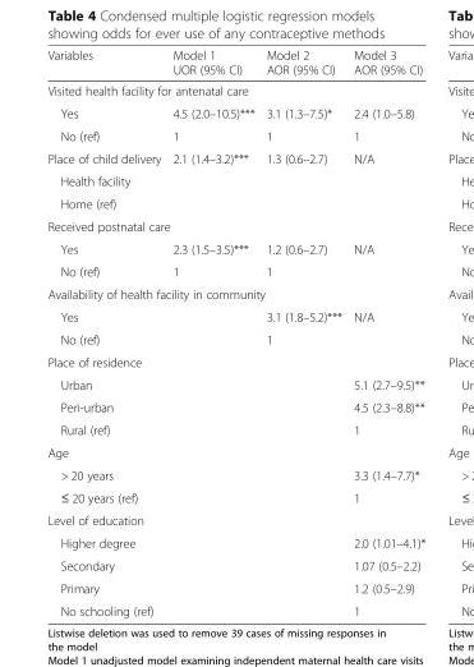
<table><thead><tr><td>Variables</td><td>Model 1 UOR (95% CI)</td><td>Model 2 AOR (95% CI)</td><td>Model 3 AOR (95% CI)</td></tr></thead><tbody><tr><td colspan="4">Visited health facility for antenatal care</td></tr><tr><td>Yes</td><td>4.5 (2.0–10.5)***</td><td>3.1 (1.3–7.5)*</td><td>2.4 (1.0–5.8)</td></tr><tr><td>No (ref)</td><td>1</td><td>1</td><td>1</td></tr><tr><td>Place of child delivery</td><td>2.1 (1.4–3.2)***</td><td>1.3 (0.6–2.7)</td><td>N/A</td></tr><tr><td colspan="4">Health facility</td></tr><tr><td colspan="4">Home (ref)</td></tr><tr><td colspan="4">Received postnatal care</td></tr><tr><td>Yes</td><td>2.3 (1.5–3.5)***</td><td>1.2 (0.6–2.7)</td><td>N/A</td></tr><tr><td>No (ref)</td><td>1</td><td>1</td><td></td></tr><tr><td colspan="4">Availability of health facility in community</td></tr><tr><td>Yes</td><td></td><td>3.1 (1.8–5.2)***</td><td>N/A</td></tr><tr><td>No (ref)</td><td></td><td>1</td><td></td></tr><tr><td colspan="4">Place of residence</td></tr><tr><td>Urban</td><td></td><td></td><td>5.1 (2.7–9.5)**</td></tr><tr><td>Peri-urban</td><td></td><td></td><td>4.5 (2.3–8.8)**</td></tr><tr><td>Rural (ref)</td><td></td><td></td><td>1</td></tr><tr><td colspan="4">Age</td></tr><tr><td>&gt; 20 years</td><td></td><td></td><td>3.3 (1.4–7.7)*</td></tr><tr><td>≤ 20 years (ref)</td><td></td><td></td><td>1</td></tr><tr><td colspan="4">Level of education</td></tr><tr><td>Higher degree</td><td></td><td></td><td>2.0 (1.01–4.1)*</td></tr><tr><td>Secondary</td><td></td><td></td><td>1.07 (0.5–2.2)</td></tr><tr><td>Primary</td><td></td><td></td><td>1.2 (0.5–2.9)</td></tr><tr><td>No schooling (ref)</td><td></td><td></td><td>1</td></tr></tbody></table>